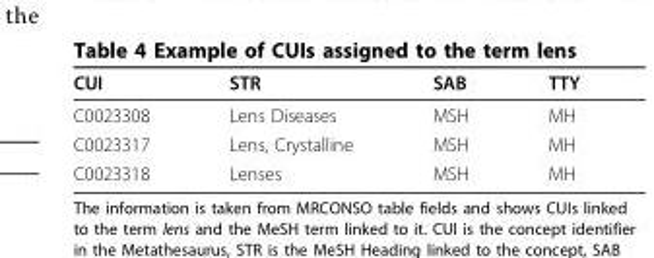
<table><thead><tr><td>CUI</td><td>STR</td><td>SAB</td><td>TTY</td></tr></thead><tbody><tr><td>C0023308</td><td>Lens Diseases</td><td>MSH</td><td>MH</td></tr><tr><td>C0023317</td><td>Lens, Crystalline</td><td>MSH</td><td>MH</td></tr><tr><td>C0023318</td><td>Lenses</td><td>MSH</td><td>MH</td></tr></tbody></table>